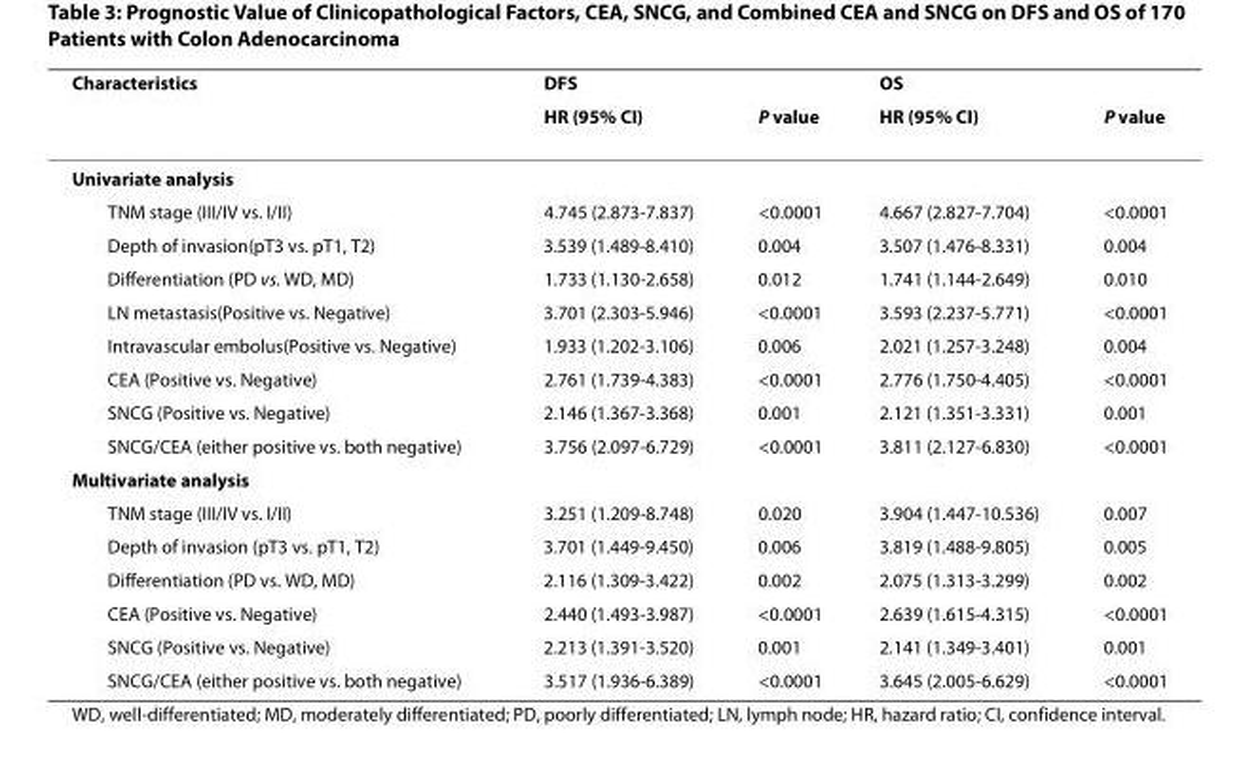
<table><thead><tr><td rowspan="2">Characteristics</td><td colspan="2">DFS</td><td colspan="2">OS</td></tr><tr><td>HR (95% CI)</td><td>P value</td><td>HR (95% CI)</td><td>P value</td></tr></thead><tbody><tr><td colspan="5">Univariate analysis</td></tr><tr><td>TNM stage (III/IV vs. I/II)</td><td>4.745 (2.873-7.837)</td><td>&lt;0.0001</td><td>4.667 (2.827-7.704)</td><td>&lt;0.0001</td></tr><tr><td>Depth of invasion(pT3 vs. pT1, T2)</td><td>3.539 (1.489-8.410)</td><td>0.004</td><td>3.507 (1.476-8.331)</td><td>0.004</td></tr><tr><td>Differentiation (PD vs. WD, MD)</td><td>1.733 (1.130-2.658)</td><td>0.012</td><td>1.741 (1.144-2.649)</td><td>0.010</td></tr><tr><td>LN metastasis(Positive vs. Negative)</td><td>3.701 (2.303-5.946)</td><td>&lt;0.0001</td><td>3.593 (2.237-5.771)</td><td>&lt;0.0001</td></tr><tr><td>Intravascular embolus(Positive vs. Negative)</td><td>1.933 (1.202-3.106)</td><td>0.006</td><td>2.021 (1.257-3.248)</td><td>0.004</td></tr><tr><td>CEA (Positive vs. Negative)</td><td>2.761 (1.739-4.383)</td><td>&lt;0.0001</td><td>2.776 (1.750-4.405)</td><td>&lt;0.0001</td></tr><tr><td>SNCG (Positive vs. Negative)</td><td>2.146 (1.367-3.368)</td><td>0.001</td><td>2.121 (1.351-3.331)</td><td>0.001</td></tr><tr><td>SNCG/CEA (either positive vs. both negative)</td><td>3.756 (2.097-6.729)</td><td>&lt;0.0001</td><td>3.811 (2.127-6.830)</td><td>&lt;0.0001</td></tr><tr><td colspan="5">Multivariate analysis</td></tr><tr><td>TNM stage (III/IV vs. I/II)</td><td>3.251 (1.209-8.748)</td><td>0.020</td><td>3.904 (1.447-10.536)</td><td>0.007</td></tr><tr><td>Depth of invasion (pT3 vs. pT1, T2)</td><td>3.701 (1.449-9.450)</td><td>0.006</td><td>3.819 (1.488-9.805)</td><td>0.005</td></tr><tr><td>Differentiation (PD vs. WD, MD)</td><td>2.116 (1.309-3.422)</td><td>0.002</td><td>2.075 (1.313-3.299)</td><td>0.002</td></tr><tr><td>CEA (Positive vs. Negative)</td><td>2.440 (1.493-3.987)</td><td>&lt;0.0001</td><td>2.639 (1.615-4.315)</td><td>&lt;0.0001</td></tr><tr><td>SNCG (Positive vs. Negative)</td><td>2.213 (1.391-3.520)</td><td>0.001</td><td>2.141 (1.349-3.401)</td><td>0.001</td></tr><tr><td>SNCG/CEA (either positive vs. both negative)</td><td>3.517 (1.936-6.389)</td><td>&lt;0.0001</td><td>3.645 (2.005-6.629)</td><td>&lt;0.0001</td></tr></tbody></table>